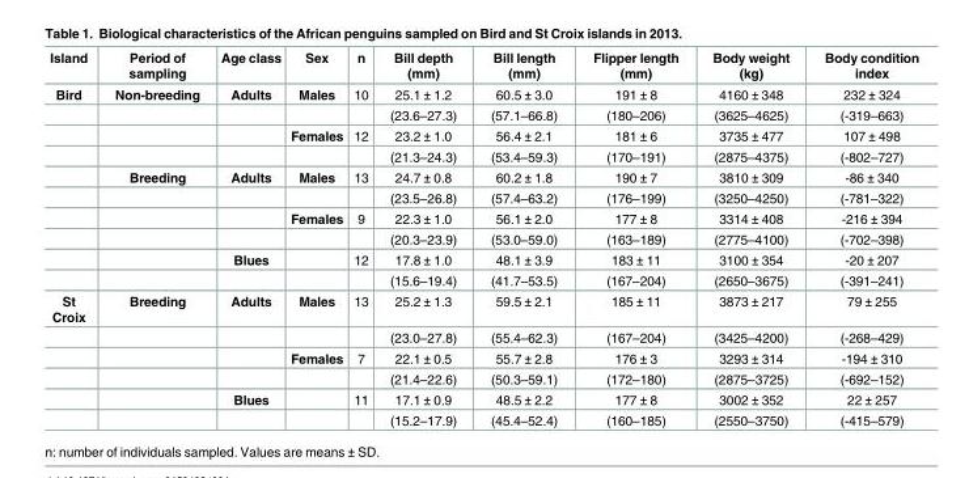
<table><thead><tr><td>Island</td><td>Period of sampling</td><td>Age class</td><td>Sex</td><td>n</td><td>Bill depth (mm)</td><td>Bill length (mm)</td><td>Flipper length (mm)</td><td>Body weight (kg)</td><td>Body condition index</td></tr></thead><tbody><tr><td rowspan="10">Bird</td><td>Non-breeding</td><td>Adults</td><td>Males</td><td>10</td><td>25.1 ± 1.2</td><td>60.5 ± 3.0</td><td>191 ± 8</td><td>4160 ± 348</td><td>232 ± 324</td></tr><tr><td></td><td></td><td></td><td></td><td>(23.6–27.3)</td><td>(57.1–66.8)</td><td>(180–206)</td><td>(3625–4625)</td><td>(-319–663)</td></tr><tr><td></td><td></td><td>Females</td><td>12</td><td>23.2 ± 1.0</td><td>56.4 ± 2.1</td><td>181 ± 6</td><td>3735 ± 477</td><td>107 ± 498</td></tr><tr><td></td><td></td><td></td><td></td><td>(21.3–24.3)</td><td>(53.4–59.3)</td><td>(170–191)</td><td>(2875–4375)</td><td>(-802–727)</td></tr><tr><td>Breeding</td><td>Adults</td><td>Males</td><td>13</td><td>24.7 ± 0.8</td><td>60.2 ± 1.8</td><td>190 ± 7</td><td>3810 ± 309</td><td>-86 ± 340</td></tr><tr><td></td><td></td><td></td><td></td><td>(23.5–26.8)</td><td>(57.4–63.2)</td><td>(176–199)</td><td>(3250–4250)</td><td>(-781–322)</td></tr><tr><td></td><td></td><td>Females</td><td>9</td><td>22.3 ± 1.0</td><td>56.1 ± 2.0</td><td>177 ± 8</td><td>3314 ± 408</td><td>-216 ± 394</td></tr><tr><td></td><td></td><td></td><td></td><td>(20.3–23.9)</td><td>(53.0–59.0)</td><td>(163–189)</td><td>(2775–4100)</td><td>(-702–398)</td></tr><tr><td></td><td>Blues</td><td></td><td>12</td><td>17.8 ± 1.0</td><td>48.1 ± 3.9</td><td>183 ± 11</td><td>3100 ± 354</td><td>-20 ± 207</td></tr><tr><td></td><td></td><td></td><td></td><td>(15.6–19.4)</td><td>(41.7–53.5)</td><td>(167–204)</td><td>(2650–3675)</td><td>(-391–241)</td></tr><tr><td rowspan="6">St Croix</td><td>Breeding</td><td>Adults</td><td>Males</td><td>13</td><td>25.2 ± 1.3</td><td>59.5 ± 2.1</td><td>185 ± 11</td><td>3873 ± 217</td><td>79 ± 255</td></tr><tr><td></td><td></td><td></td><td></td><td>(23.0–27.8)</td><td>(55.4–62.3)</td><td>(167–204)</td><td>(3425–4200)</td><td>(-268–429)</td></tr><tr><td></td><td></td><td>Females</td><td>7</td><td>22.1 ± 0.5</td><td>55.7 ± 2.8</td><td>176 ± 3</td><td>3293 ± 314</td><td>-194 ± 310</td></tr><tr><td></td><td></td><td></td><td></td><td>(21.4–22.6)</td><td>(50.3–59.1)</td><td>(172–180)</td><td>(2875–3725)</td><td>(-692–152)</td></tr><tr><td></td><td>Blues</td><td></td><td>11</td><td>17.1 ± 0.9</td><td>48.5 ± 2.2</td><td>177 ± 8</td><td>3002 ± 352</td><td>22 ± 257</td></tr><tr><td></td><td></td><td></td><td></td><td>(15.2–17.9)</td><td>(45.4–52.4)</td><td>(160–185)</td><td>(2550–3750)</td><td>(-415–579)</td></tr></tbody></table>